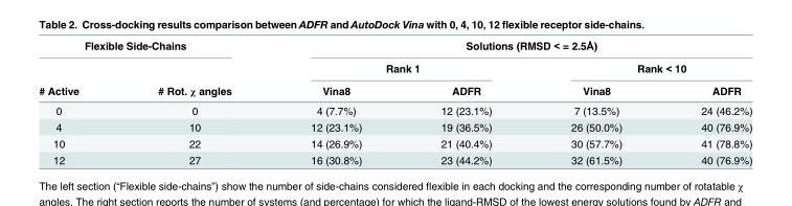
<table><thead><tr><td colspan="2">Flexible Side-Chains</td><td colspan="4">Solutions (RMSD &lt; = 2.5Å)</td></tr><tr><td rowspan="2"># Active</td><td rowspan="2"># Rot. χ angles</td><td colspan="2">Rank 1</td><td colspan="2">Rank &lt; 10</td></tr><tr><td>Vina8</td><td>ADFR</td><td>Vina8</td><td>ADFR</td></tr></thead><tbody><tr><td>0</td><td>0</td><td>4 (7.7%)</td><td>12 (23.1%)</td><td>7 (13.5%)</td><td>24 (46.2%)</td></tr><tr><td>4</td><td>10</td><td>12 (23.1%)</td><td>19 (36.5%)</td><td>26 (50.0%)</td><td>40 (76.9%)</td></tr><tr><td>10</td><td>22</td><td>14 (26.9%)</td><td>21 (40.4%)</td><td>30 (57.7%)</td><td>41 (78.8%)</td></tr><tr><td>12</td><td>27</td><td>16 (30.8%)</td><td>23 (44.2%)</td><td>32 (61.5%)</td><td>40 (76.9%)</td></tr></tbody></table>